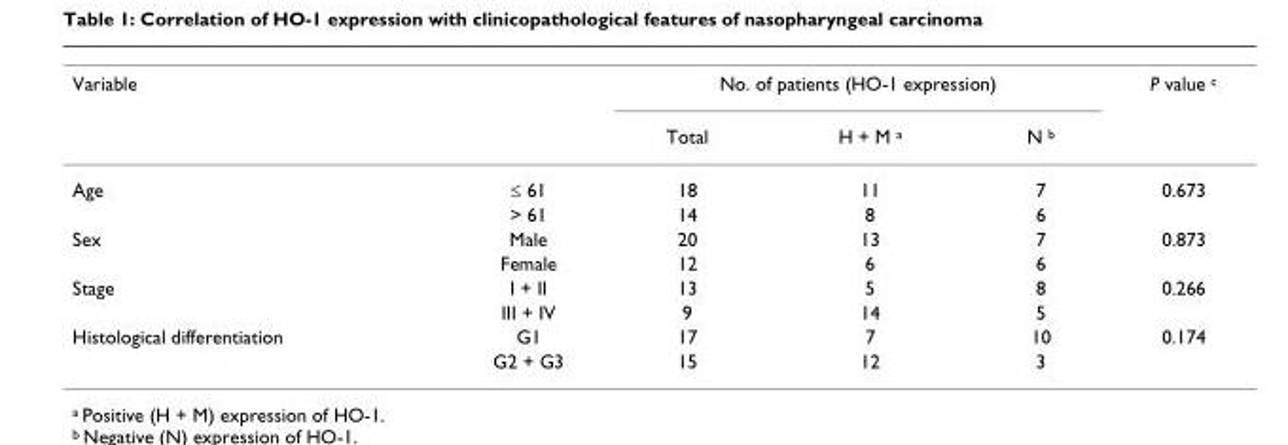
<table><tbody><tr><td rowspan="2">Variable</td><td></td><td colspan="3">No. of patients (HO-1 expression)</td><td>P value <sup>c</sup></td></tr><tr><td></td><td>Total</td><td>H + M <sup>a</sup></td><td>N <sup>b</sup></td><td></td></tr><tr><td rowspan="2">Age</td><td>≤ 61</td><td>18</td><td>11</td><td>7</td><td>0.673</td></tr><tr><td>&gt; 61</td><td>14</td><td>8</td><td>6</td><td></td></tr><tr><td rowspan="2">Sex</td><td>Male</td><td>20</td><td>13</td><td>7</td><td>0.873</td></tr><tr><td>Female</td><td>12</td><td>6</td><td>6</td><td></td></tr><tr><td rowspan="2">Stage</td><td>I + II</td><td>13</td><td>5</td><td>8</td><td>0.266</td></tr><tr><td>III + IV</td><td>9</td><td>14</td><td>5</td><td></td></tr><tr><td rowspan="2">Histological differentiation</td><td>G1</td><td>17</td><td>7</td><td>10</td><td>0.174</td></tr><tr><td>G2 + G3</td><td>15</td><td>12</td><td>3</td><td></td></tr></tbody></table>